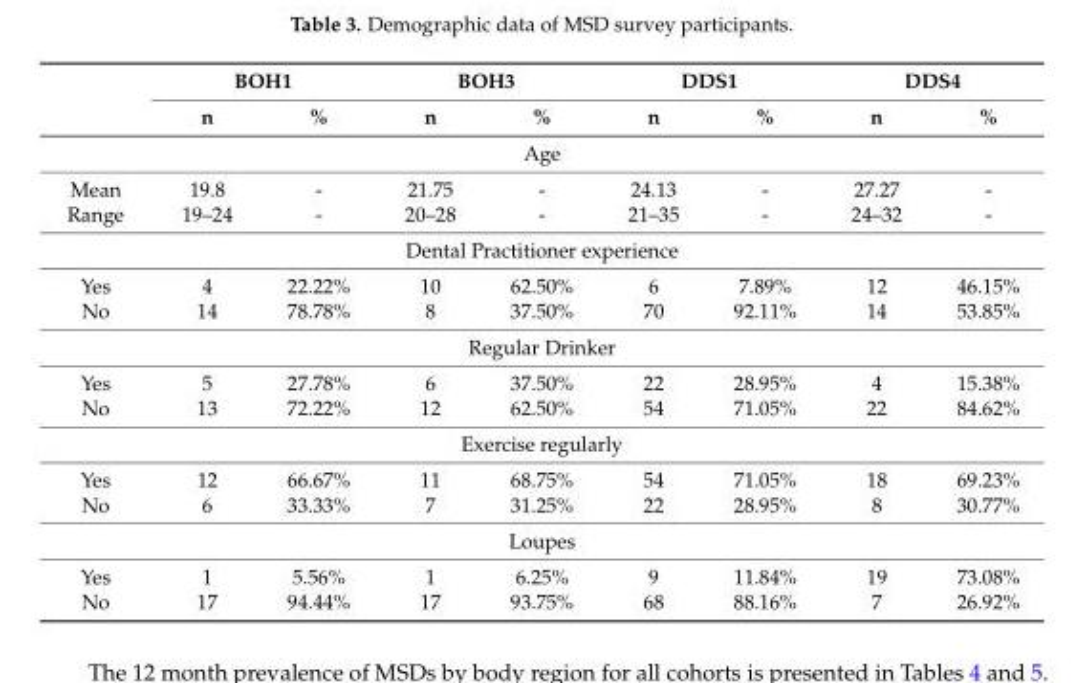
<table><thead><tr><td rowspan="2"></td><td colspan="2">BOH1</td><td colspan="2">BOH3</td><td colspan="2">DDS1</td><td colspan="2">DDS4</td></tr><tr><td>n</td><td>%</td><td>n</td><td>%</td><td>n</td><td>%</td><td>n</td><td>%</td></tr></thead><tbody><tr><td colspan="9">Age</td></tr><tr><td>Mean</td><td>19.8</td><td>-</td><td>21.75</td><td>-</td><td>24.13</td><td>-</td><td>27.27</td><td>-</td></tr><tr><td>Range</td><td>19–24</td><td>-</td><td>20–28</td><td>-</td><td>21–35</td><td>-</td><td>24–32</td><td>-</td></tr><tr><td colspan="9">Dental Practitioner experience</td></tr><tr><td>Yes</td><td>4</td><td>22.22%</td><td>10</td><td>62.50%</td><td>6</td><td>7.89%</td><td>12</td><td>46.15%</td></tr><tr><td>No</td><td>14</td><td>78.78%</td><td>8</td><td>37.50%</td><td>70</td><td>92.11%</td><td>14</td><td>53.85%</td></tr><tr><td colspan="9">Regular Drinker</td></tr><tr><td>Yes</td><td>5</td><td>27.78%</td><td>6</td><td>37.50%</td><td>22</td><td>28.95%</td><td>4</td><td>15.38%</td></tr><tr><td>No</td><td>13</td><td>72.22%</td><td>12</td><td>62.50%</td><td>54</td><td>71.05%</td><td>22</td><td>84.62%</td></tr><tr><td colspan="9">Exercise regularly</td></tr><tr><td>Yes</td><td>12</td><td>66.67%</td><td>11</td><td>68.75%</td><td>54</td><td>71.05%</td><td>18</td><td>69.23%</td></tr><tr><td>No</td><td>6</td><td>33.33%</td><td>7</td><td>31.25%</td><td>22</td><td>28.95%</td><td>8</td><td>30.77%</td></tr><tr><td colspan="9">Loupes</td></tr><tr><td>Yes</td><td>1</td><td>5.56%</td><td>1</td><td>6.25%</td><td>9</td><td>11.84%</td><td>19</td><td>73.08%</td></tr><tr><td>No</td><td>17</td><td>94.44%</td><td>17</td><td>93.75%</td><td>68</td><td>88.16%</td><td>7</td><td>26.92%</td></tr></tbody></table>